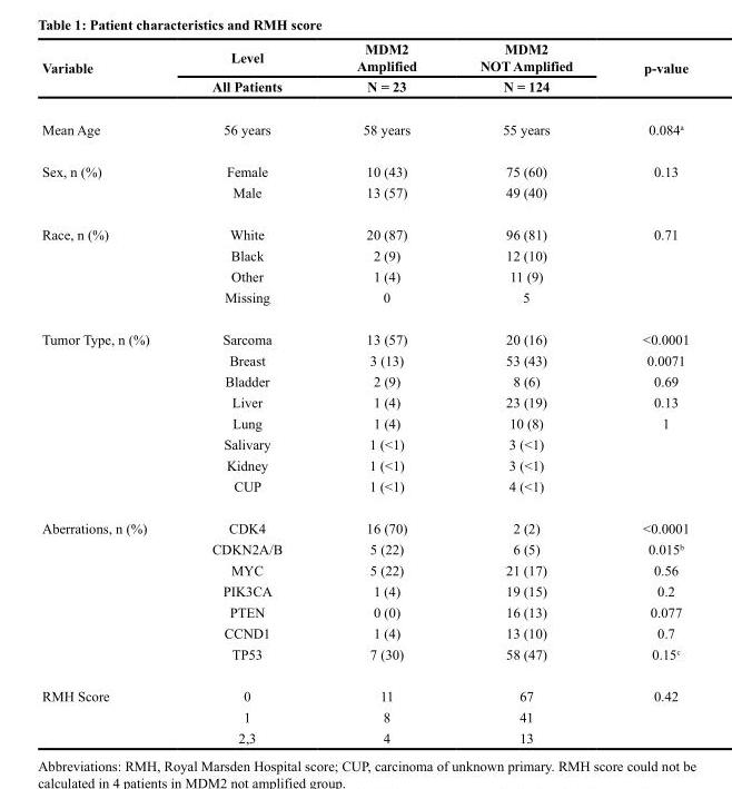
<table><thead><tr><td rowspan="2">Variable</td><td rowspan="2">Level All Patients</td><td rowspan="2">MDM2 Amplified N = 23</td><td rowspan="2">MDM2 NOT Amplified N = 124</td><td rowspan="2">p-value</td></tr><tr></tr></thead><tbody><tr><td>Mean Age</td><td>56 years</td><td>58 years</td><td>55 years</td><td>0.084<sup>a</sup></td></tr><tr><td rowspan="2">Sex, n (%)</td><td>Female</td><td>10 (43)</td><td>75 (60)</td><td>0.13</td></tr><tr><td>Male</td><td>13 (57)</td><td>49 (40)</td><td></td></tr><tr><td rowspan="4">Race, n (%)</td><td>White</td><td>20 (87)</td><td>96 (81)</td><td>0.71</td></tr><tr><td>Black</td><td>2 (9)</td><td>12 (10)</td><td></td></tr><tr><td>Other</td><td>1 (4)</td><td>11 (9)</td><td></td></tr><tr><td>Missing</td><td>0</td><td>5</td><td></td></tr><tr><td rowspan="8">Tumor Type, n (%)</td><td>Sarcoma</td><td>13 (57)</td><td>20 (16)</td><td>&lt;0.0001</td></tr><tr><td>Breast</td><td>3 (13)</td><td>53 (43)</td><td>0.0071</td></tr><tr><td>Bladder</td><td>2 (9)</td><td>8 (6)</td><td>0.69</td></tr><tr><td>Liver</td><td>1 (4)</td><td>23 (19)</td><td>0.13</td></tr><tr><td>Lung</td><td>1 (4)</td><td>10 (8)</td><td>1</td></tr><tr><td>Salivary</td><td>1 (&lt;1)</td><td>3 (&lt;1)</td><td></td></tr><tr><td>Kidney</td><td>1 (&lt;1)</td><td>3 (&lt;1)</td><td></td></tr><tr><td>CUP</td><td>1 (&lt;1)</td><td>4 (&lt;1)</td><td></td></tr><tr><td rowspan="7">Aberrations, n (%)</td><td>CDK4</td><td>16 (70)</td><td>2 (2)</td><td>&lt;0.0001</td></tr><tr><td>CDKN2A/B</td><td>5 (22)</td><td>6 (5)</td><td>0.015<sup>b</sup></td></tr><tr><td>MYC</td><td>5 (22)</td><td>21 (17)</td><td>0.56</td></tr><tr><td>PIK3CA</td><td>1 (4)</td><td>19 (15)</td><td>0.2</td></tr><tr><td>PTEN</td><td>0 (0)</td><td>16 (13)</td><td>0.077</td></tr><tr><td>CCND1</td><td>1 (4)</td><td>13 (10)</td><td>0.7</td></tr><tr><td>TP53</td><td>7 (30)</td><td>58 (47)</td><td>0.15<sup>c</sup></td></tr><tr><td rowspan="3">RMH Score</td><td>0</td><td>11</td><td>67</td><td>0.42</td></tr><tr><td>1</td><td>8</td><td>41</td><td></td></tr><tr><td>2,3</td><td>4</td><td>13</td><td></td></tr></tbody></table>